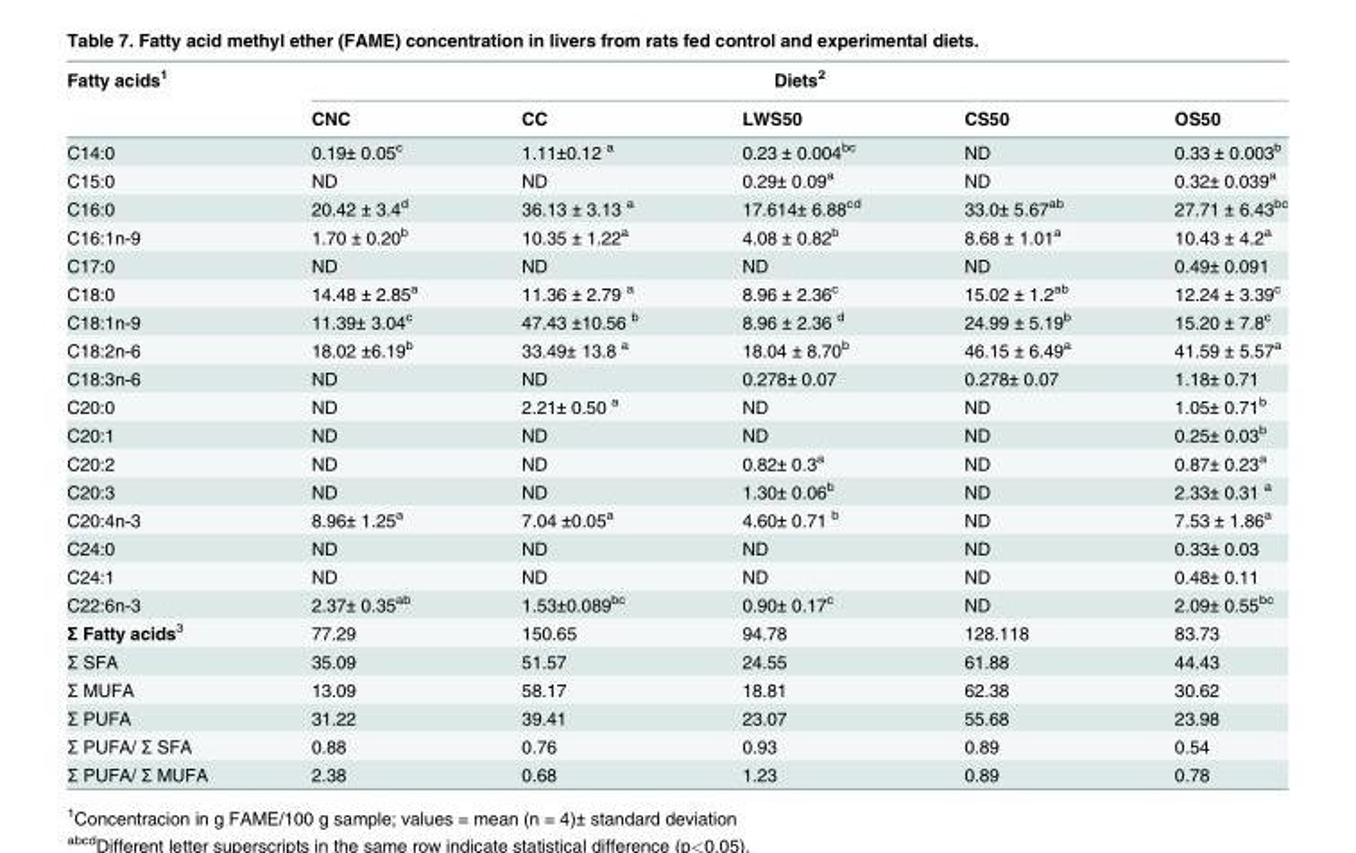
<table><thead><tr><td rowspan="2">Fatty acids<sup>1</sup></td><td colspan="5">Diets<sup>2</sup></td></tr><tr><td>CNC</td><td>CC</td><td>LWS50</td><td>CS50</td><td>OS50</td></tr></thead><tbody><tr><td>C14:0</td><td>0.19± 0.05<sup>c</sup></td><td>1.11±0.12 <sup>a</sup></td><td>0.23 ± 0.004<sup>bc</sup></td><td>ND</td><td>0.33 ± 0.003<sup>b</sup></td></tr><tr><td>C15:0</td><td>ND</td><td>ND</td><td>0.29± 0.09<sup>a</sup></td><td>ND</td><td>0.32± 0.039<sup>a</sup></td></tr><tr><td>C16:0</td><td>20.42 ± 3.4<sup>d</sup></td><td>36.13 ± 3.13 <sup>a</sup></td><td>17.614± 6.88<sup>cd</sup></td><td>33.0± 5.67<sup>ab</sup></td><td>27.71 ± 6.43<sup>bc</sup></td></tr><tr><td>C16:1n-9</td><td>1.70 ± 0.20<sup>b</sup></td><td>10.35 ± 1.22<sup>a</sup></td><td>4.08 ± 0.82<sup>b</sup></td><td>8.68 ± 1.01<sup>a</sup></td><td>10.43 ± 4.2<sup>a</sup></td></tr><tr><td>C17:0</td><td>ND</td><td>ND</td><td>ND</td><td>ND</td><td>0.49± 0.091</td></tr><tr><td>C18:0</td><td>14.48 ± 2.85<sup>a</sup></td><td>11.36 ± 2.79 <sup>a</sup></td><td>8.96 ± 2.36<sup>c</sup></td><td>15.02 ± 1.2<sup>ab</sup></td><td>12.24 ± 3.39<sup>c</sup></td></tr><tr><td>C18:1n-9</td><td>11.39± 3.04<sup>c</sup></td><td>47.43 ±10.56 <sup>b</sup></td><td>8.96 ± 2.36 <sup>d</sup></td><td>24.99 ± 5.19<sup>b</sup></td><td>15.20 ± 7.8<sup>c</sup></td></tr><tr><td>C18:2n-6</td><td>18.02 ±6.19<sup>b</sup></td><td>33.49± 13.8 <sup>a</sup></td><td>18.04 ± 8.70<sup>b</sup></td><td>46.15 ± 6.49<sup>a</sup></td><td>41.59 ± 5.57<sup>a</sup></td></tr><tr><td>C18:3n-6</td><td>ND</td><td>ND</td><td>0.278± 0.07</td><td>0.278± 0.07</td><td>1.18± 0.71</td></tr><tr><td>C20:0</td><td>ND</td><td>2.21± 0.50 <sup>a</sup></td><td>ND</td><td>ND</td><td>1.05± 0.71<sup>b</sup></td></tr><tr><td>C20:1</td><td>ND</td><td>ND</td><td>ND</td><td>ND</td><td>0.25± 0.03<sup>b</sup></td></tr><tr><td>C20:2</td><td>ND</td><td>ND</td><td>0.82± 0.3<sup>a</sup></td><td>ND</td><td>0.87± 0.23<sup>a</sup></td></tr><tr><td>C20:3</td><td>ND</td><td>ND</td><td>1.30± 0.06<sup>b</sup></td><td>ND</td><td>2.33± 0.31 <sup>a</sup></td></tr><tr><td>C20:4n-3</td><td>8.96± 1.25<sup>a</sup></td><td>7.04 ±0.05<sup>a</sup></td><td>4.60± 0.71 <sup>b</sup></td><td>ND</td><td>7.53 ± 1.86<sup>a</sup></td></tr><tr><td>C24:0</td><td>ND</td><td>ND</td><td>ND</td><td>ND</td><td>0.33± 0.03</td></tr><tr><td>C24:1</td><td>ND</td><td>ND</td><td>ND</td><td>ND</td><td>0.48± 0.11</td></tr><tr><td>C22:6n-3</td><td>2.37± 0.35<sup>ab</sup></td><td>1.53±0.089<sup>bc</sup></td><td>0.90± 0.17<sup>c</sup></td><td>ND</td><td>2.09± 0.55<sup>bc</sup></td></tr><tr><td>Σ Fatty acids<sup>3</sup></td><td>77.29</td><td>150.65</td><td>94.78</td><td>128.118</td><td>83.73</td></tr><tr><td>Σ SFA</td><td>35.09</td><td>51.57</td><td>24.55</td><td>61.88</td><td>44.43</td></tr><tr><td>Σ MUFA</td><td>13.09</td><td>58.17</td><td>18.81</td><td>62.38</td><td>30.62</td></tr><tr><td>Σ PUFA</td><td>31.22</td><td>39.41</td><td>23.07</td><td>55.68</td><td>23.98</td></tr><tr><td>Σ PUFA/ Σ SFA</td><td>0.88</td><td>0.76</td><td>0.93</td><td>0.89</td><td>0.54</td></tr><tr><td>Σ PUFA/ Σ MUFA</td><td>2.38</td><td>0.68</td><td>1.23</td><td>0.89</td><td>0.78</td></tr></tbody></table>